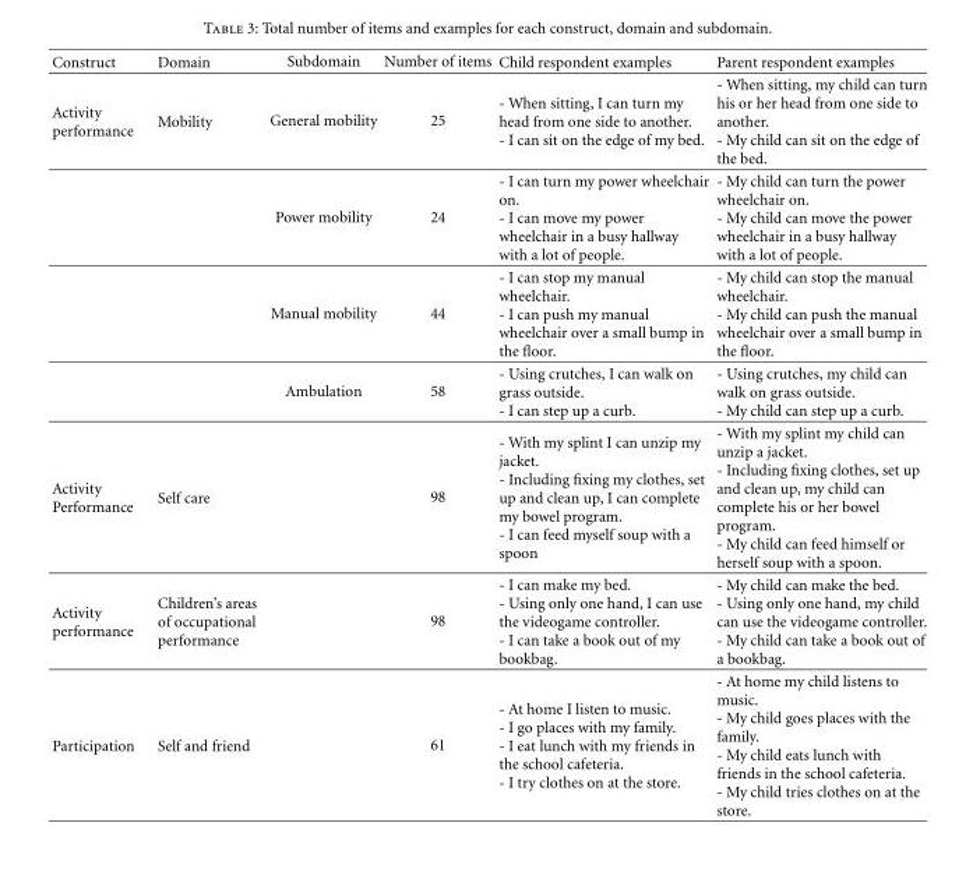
<table><thead><tr><td>Construct</td><td>Domain</td><td>Subdomain</td><td>Number of items</td><td>Child respondent examples</td><td>Parent respondent examples</td></tr></thead><tbody><tr><td rowspan="4">Activity performance</td><td>Mobility</td><td>General mobility</td><td>25</td><td>- When sitting, I can turn my head from one side to another. - I can sit on the edge of my bed.</td><td>- When sitting, my child can turn his or her head from one side to another. - My child can sit on the edge of the bed.</td></tr><tr><td></td><td>Power mobility</td><td>24</td><td>- I can turn my power wheelchair on. - I can move my power wheelchair in a busy hallway with a lot of people.</td><td>- My child can turn the power wheelchair on. - My child can move the power wheelchair in a busy hallway with a lot of people.</td></tr><tr><td></td><td>Manual mobility</td><td>44</td><td>- I can stop my manual wheelchair. - I can push my manual wheelchair over a small bump in the floor.</td><td>- My child can stop the manual wheelchair. - My child can push the manual wheelchair over a small bump in the floor.</td></tr><tr><td></td><td>Ambulation</td><td>58</td><td>- Using crutches, I can walk on grass outside. - I can step up a curb.</td><td>- Using crutches, my child can walk on grass outside. - My child can step up a curb.</td></tr><tr><td>Activity Performance</td><td>Self care</td><td></td><td>98</td><td>- With my splint I can unzip my jacket. - Including fixing my clothes, set up and clean up, I can complete my bowel program. - I can feed myself soup with a spoon</td><td>- With my splint my child can unzip a jacket. - Including fixing clothes, set up and clean up, my child can complete his or her bowel program. - My child can feed himself or herself soup with a spoon.</td></tr><tr><td>Activity performance</td><td>Children’s areas of occupational performance</td><td></td><td>98</td><td>- I can make my bed. - Using only one hand, I can use the videogame controller. - I can take a book out of my bookbag.</td><td>- My child can make the bed. - Using only one hand, my child can use the videogame controller. - My child can take a book out of a bookbag.</td></tr><tr><td>Participation</td><td>Self and friend</td><td></td><td>61</td><td>- At home I listen to music. - I go places with my family. - I eat lunch with my friends in the school cafeteria. - I try clothes on at the store.</td><td>- At home my child listens to music. - My child goes places with the family. - My child eats lunch with friends in the school cafeteria. - My child tries clothes on at the store.</td></tr></tbody></table>